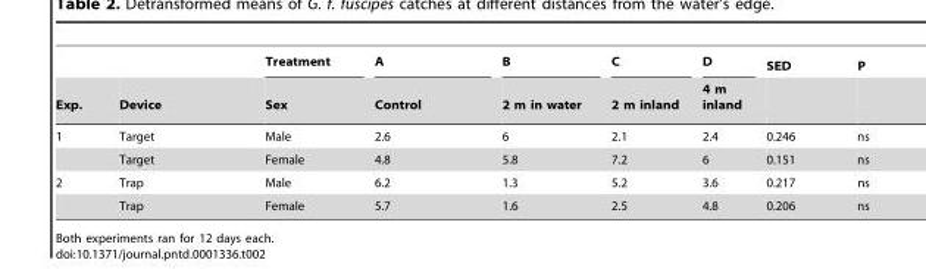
<table><thead><tr><td rowspan="2">Exp.</td><td rowspan="2">Device</td><td rowspan="2">Treatment Sex</td><td rowspan="2">A Control</td><td rowspan="2">B 2 m in water</td><td rowspan="2">C 2 m inland</td><td rowspan="2">D 4 m inland</td><td rowspan="2">SED</td><td rowspan="2">P</td></tr><tr></tr></thead><tbody><tr><td rowspan="2">1</td><td>Target</td><td>Male</td><td>2.6</td><td>6</td><td>2.1</td><td>2.4</td><td>0.246</td><td>ns</td></tr><tr><td>Target</td><td>Female</td><td>4.8</td><td>5.8</td><td>7.2</td><td>6</td><td>0.151</td><td>ns</td></tr><tr><td rowspan="2">2</td><td>Trap</td><td>Male</td><td>6.2</td><td>1.3</td><td>5.2</td><td>3.6</td><td>0.217</td><td>ns</td></tr><tr><td>Trap</td><td>Female</td><td>5.7</td><td>1.6</td><td>2.5</td><td>4.8</td><td>0.206</td><td>ns</td></tr></tbody></table>